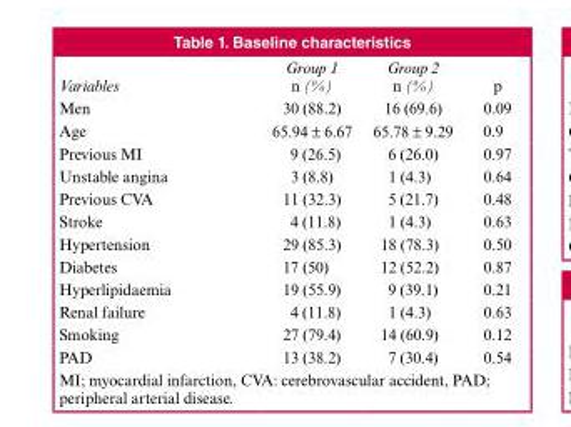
<table><thead><tr><td>Variables</td><td>Group 1 n (%)</td><td>Group 2 n (%)</td><td>p</td></tr></thead><tbody><tr><td>Men</td><td>30 (88.2)</td><td>16 (69.6)</td><td>0.09</td></tr><tr><td>Age</td><td>65.94 ± 6.67</td><td>65.78 ± 9.29</td><td>0.9</td></tr><tr><td>Previous MI</td><td>9 (26.5)</td><td>6 (26.0)</td><td>0.97</td></tr><tr><td>Unstable angina</td><td>3 (8.8)</td><td>1 (4.3)</td><td>0.64</td></tr><tr><td>Previous CVA</td><td>11 (32.3)</td><td>5 (21.7)</td><td>0.48</td></tr><tr><td>Stroke</td><td>4 (11.8)</td><td>1 (4.3)</td><td>0.63</td></tr><tr><td>Hypertension</td><td>29 (85.3)</td><td>18 (78.3)</td><td>0.50</td></tr><tr><td>Diabetes</td><td>17 (50)</td><td>12 (52.2)</td><td>0.87</td></tr><tr><td>Hyperlipidaemia</td><td>19 (55.9)</td><td>9 (39.1)</td><td>0.21</td></tr><tr><td>Renal failure</td><td>4 (11.8)</td><td>1 (4.3)</td><td>0.63</td></tr><tr><td>Smoking</td><td>27 (79.4)</td><td>14 (60.9)</td><td>0.12</td></tr><tr><td>PAD</td><td>13 (38.2)</td><td>7 (30.4)</td><td>0.54</td></tr></tbody></table>